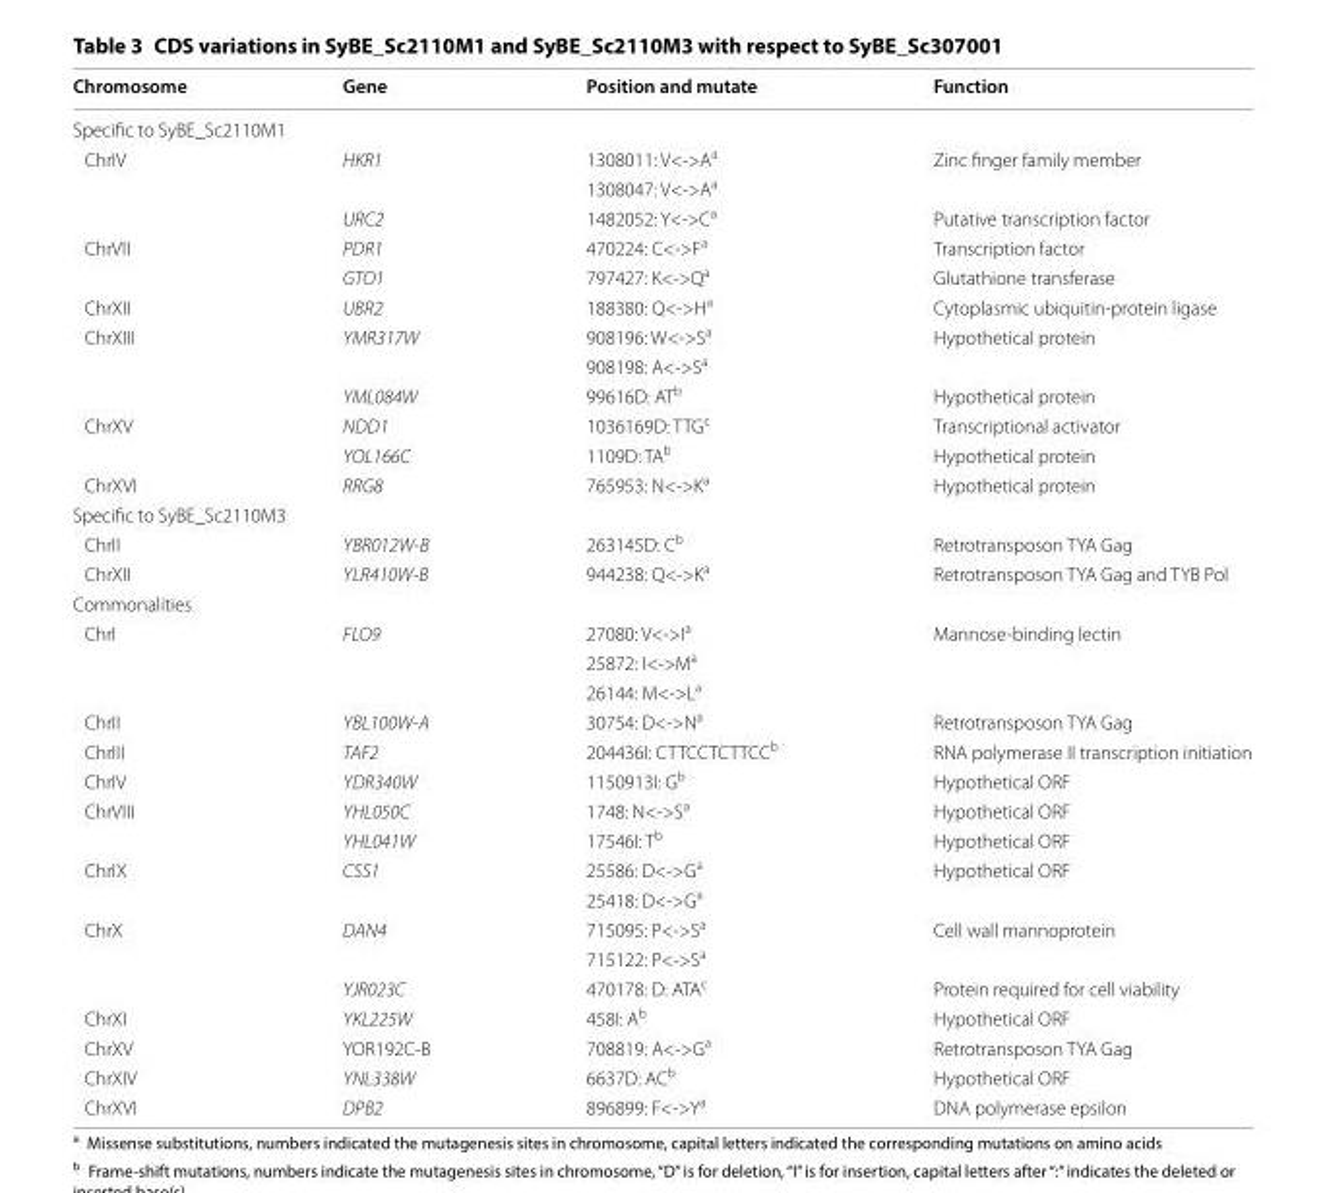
<table><thead><tr><td>Chromosome</td><td>Gene</td><td>Position and mutate</td><td>Function</td></tr></thead><tbody><tr><td colspan="4">Specific to SyBE_Sc2110M1</td></tr><tr><td rowspan="3">ChrIV</td><td rowspan="2">HKR1</td><td>1308011: V&lt;-&gt;A<sup>a</sup></td><td rowspan="2">Zinc finger family member</td></tr><tr><td>1308047: V&lt;-&gt;A<sup>a</sup></td></tr><tr><td>URC2</td><td>1482052: Y&lt;-&gt;C<sup>a</sup></td><td>Putative transcription factor</td></tr><tr><td rowspan="2">ChrVII</td><td>PDR1</td><td>470224: C&lt;-&gt;F<sup>a</sup></td><td>Transcription factor</td></tr><tr><td>GTO1</td><td>797427: K&lt;-&gt;Q<sup>a</sup></td><td>Glutathione transferase</td></tr><tr><td>ChrXII</td><td>UBR2</td><td>188380: Q&lt;-&gt;H<sup>a</sup></td><td>Cytoplasmic ubiquitin-protein ligase</td></tr><tr><td rowspan="3">ChrXIII</td><td rowspan="2">YMR317W</td><td>908196: W&lt;-&gt;S<sup>a</sup></td><td rowspan="2">Hypothetical protein</td></tr><tr><td>908198: A&lt;-&gt;S<sup>a</sup></td></tr><tr><td>YML084W</td><td>99616D: AT<sup>b</sup></td><td>Hypothetical protein</td></tr><tr><td rowspan="2">ChrXV</td><td>NDD1</td><td>1036169D: TTG <sup>c</sup></td><td>Transcriptional activator</td></tr><tr><td>YOL166C</td><td>1109D: TA<sup>b</sup></td><td>Hypothetical protein</td></tr><tr><td>ChrXVI</td><td>RRG8</td><td>765953: N&lt;-&gt;K<sup>a</sup></td><td>Hypothetical protein</td></tr><tr><td colspan="4">Specific to SyBE_Sc2110M3</td></tr><tr><td>ChrII</td><td>YBR012W-B</td><td>263145D: C<sup>b</sup></td><td>Retrotransposon TYA Gag</td></tr><tr><td>ChrXII</td><td>YLR410W-B</td><td>944238: Q&lt;-&gt;K<sup>a</sup></td><td>Retrotransposon TYA Gag and TYB Pol</td></tr><tr><td colspan="4">Commonalities</td></tr><tr><td rowspan="3">ChrI</td><td rowspan="3">FLO9</td><td>27080: V&lt;-&gt;I<sup>a</sup></td><td rowspan="3">Mannose-binding lectin</td></tr><tr><td>25872: I&lt;-&gt;M<sup>a</sup></td></tr><tr><td>26144: M&lt;-&gt;L<sup>a</sup></td></tr><tr><td>ChrII</td><td>YBL100W-A</td><td>30754: D&lt;-&gt;N<sup>a</sup></td><td>Retrotransposon TYA Gag</td></tr><tr><td>ChrIII</td><td>TAF2</td><td>204436I: CTT CCT CTTCC <sup>b</sup></td><td>RNA polymerase II transcription initiation</td></tr><tr><td>ChrIV</td><td>YDR340W</td><td>1150913I: G<sup>b</sup></td><td>Hypothetical ORF</td></tr><tr><td rowspan="2">ChrVIII</td><td>YHL050C</td><td>1748: N&lt;-&gt;S<sup>a</sup></td><td>Hypothetical ORF</td></tr><tr><td>YHL041W</td><td>17546I: T<sup>b</sup></td><td>Hypothetical ORF</td></tr><tr><td rowspan="2">ChrIX</td><td>CSS1</td><td>25586: D&lt;-&gt;G<sup>a</sup></td><td rowspan="2">Hypothetical ORF</td></tr><tr><td></td><td>25418: D&lt;-&gt;G<sup>a</sup></td></tr><tr><td rowspan="3">ChrX</td><td rowspan="2">DAN4</td><td>715095: P&lt;-&gt;S<sup>a</sup></td><td rowspan="2">Cell wall mannoprotein</td></tr><tr><td>715122: P&lt;-&gt;S<sup>a</sup></td></tr><tr><td>YJR023C</td><td>470178: D: ATA <sup>c</sup></td><td>Protein required for cell viability</td></tr><tr><td>ChrXI</td><td>YKL225W</td><td>458I: A<sup>b</sup></td><td>Hypothetical ORF</td></tr><tr><td>ChrXV</td><td>YOR192C-B</td><td>708819: A&lt;-&gt;G<sup>a</sup></td><td>Retrotransposon TYA Gag</td></tr><tr><td>ChrXIV</td><td>YNL338W</td><td>6637D: AC<sup>b</sup></td><td>Hypothetical ORF</td></tr><tr><td>ChrXVI</td><td>DPB2</td><td>896899: F&lt;-&gt;Y<sup>a</sup></td><td>DNA polymerase epsilon</td></tr></tbody></table>